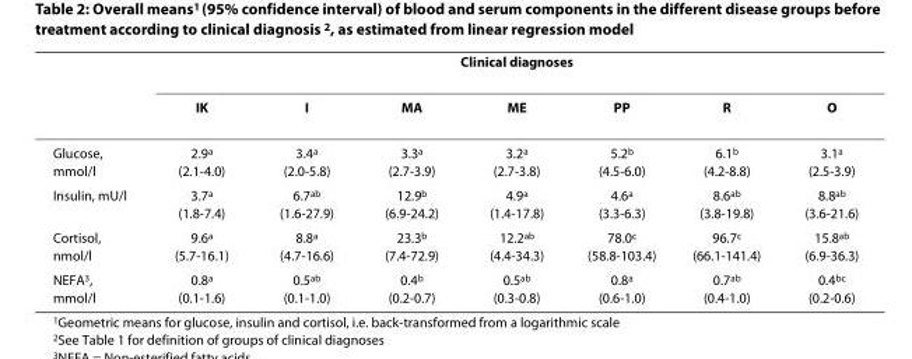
<table><thead><tr><td rowspan="2"></td><td colspan="7">Clinical diagnoses</td></tr><tr><td>IK</td><td>I</td><td>MA</td><td>ME</td><td>PP</td><td>R</td><td>O</td></tr></thead><tbody><tr><td>Glucose, mmol/l</td><td>2.9<sup>a</sup> (2.1-4.0)</td><td>3.4<sup>a</sup> (2.0-5.8)</td><td>3.3<sup>a</sup> (2.7-3.9)</td><td>3.2<sup>a</sup> (2.7-3.8)</td><td>5.2<sup>b</sup> (4.5-6.0)</td><td>6.1<sup>b</sup> (4.2-8.8)</td><td>3.1<sup>a</sup> (2.5-3.9)</td></tr><tr><td>Insulin, mU/l</td><td>3.7<sup>a</sup> (1.8-7.4)</td><td>6.7<sup>ab</sup> (1.6-27.9)</td><td>12.9<sup>b</sup> (6.9-24.2)</td><td>4.9<sup>a</sup> (1.4-17.8)</td><td>4.6<sup>a</sup> (3.3-6.3)</td><td>8.6<sup>ab</sup> (3.8-19.8)</td><td>8.8<sup>ab</sup> (3.6-21.6)</td></tr><tr><td>Cortisol, nmol/l</td><td>9.6<sup>a</sup> (5.7-16.1)</td><td>8.8<sup>a</sup> (4.7-16.6)</td><td>23.3<sup>b</sup> (7.4-72.9)</td><td>12.2<sup>ab</sup> (4.4-34.3)</td><td>78.0<sup>c</sup> (58.8-103.4)</td><td>96.7<sup>c</sup> (66.1-141.4)</td><td>15.8<sup>ab</sup> (6.9-36.3)</td></tr><tr><td>NEFA<sup>3</sup>, mmol/l</td><td>0.8<sup>a</sup> (0.1-1.6)</td><td>0.5<sup>ab</sup> (0.1-1.0)</td><td>0.4<sup>b</sup> (0.2-0.7)</td><td>0.5<sup>ab</sup> (0.3-0.8)</td><td>0.8<sup>a</sup> (0.6-1.0)</td><td>0.7<sup>ab</sup> (0.4-1.0)</td><td>0.4<sup>bc</sup> (0.2-0.6)</td></tr></tbody></table>